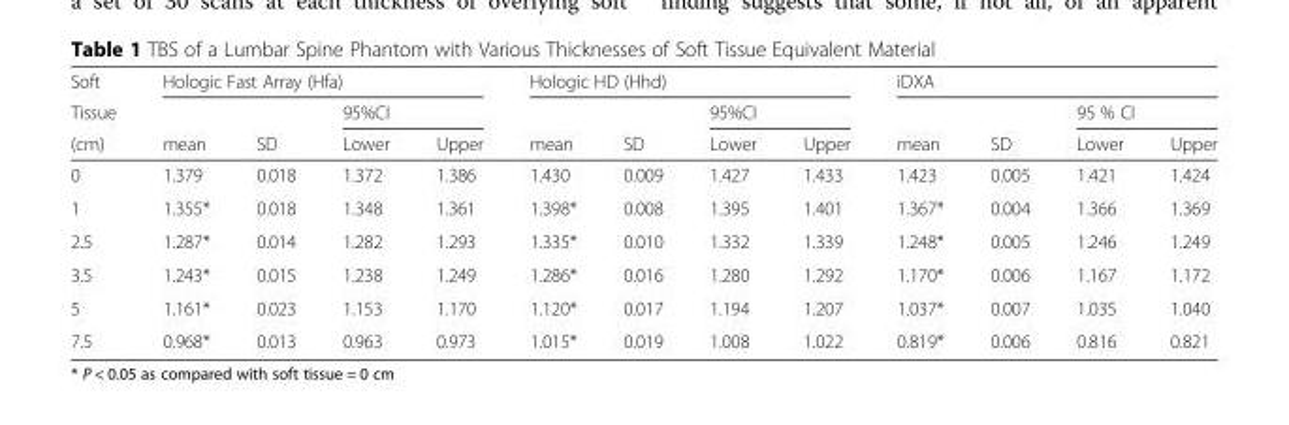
<table><thead><tr><td rowspan="3">Soft Tissue (cm)</td><td colspan="4">Hologic Fast Array (Hfa)</td><td colspan="4">Hologic HD (Hhd)</td><td colspan="4">iDXA</td></tr><tr><td rowspan="2">mean</td><td rowspan="2">SD</td><td colspan="2">95%CI</td><td rowspan="2">mean</td><td rowspan="2">SD</td><td colspan="2">95%CI</td><td rowspan="2">mean</td><td rowspan="2">SD</td><td colspan="2">95 % CI</td></tr><tr><td>Lower</td><td>Upper</td><td>Lower</td><td>Upper</td><td>Lower</td><td>Upper</td></tr></thead><tbody><tr><td>0</td><td>1.379</td><td>0.018</td><td>1.372</td><td>1.386</td><td>1.430</td><td>0.009</td><td>1.427</td><td>1.433</td><td>1.423</td><td>0.005</td><td>1.421</td><td>1.424</td></tr><tr><td>1</td><td>1.355*</td><td>0.018</td><td>1.348</td><td>1.361</td><td>1.398*</td><td>0.008</td><td>1.395</td><td>1.401</td><td>1.367*</td><td>0.004</td><td>1.366</td><td>1.369</td></tr><tr><td>2.5</td><td>1.287*</td><td>0.014</td><td>1.282</td><td>1.293</td><td>1.335*</td><td>0.010</td><td>1.332</td><td>1.339</td><td>1.248*</td><td>0.005</td><td>1.246</td><td>1.249</td></tr><tr><td>3.5</td><td>1.243*</td><td>0.015</td><td>1.238</td><td>1.249</td><td>1.286*</td><td>0.016</td><td>1.280</td><td>1.292</td><td>1.170*</td><td>0.006</td><td>1.167</td><td>1.172</td></tr><tr><td>5</td><td>1.161*</td><td>0.023</td><td>1.153</td><td>1.170</td><td>1.120*</td><td>0.017</td><td>1.194</td><td>1.207</td><td>1.037*</td><td>0.007</td><td>1.035</td><td>1.040</td></tr><tr><td>7.5</td><td>0.968*</td><td>0.013</td><td>0.963</td><td>0.973</td><td>1.015*</td><td>0.019</td><td>1.008</td><td>1.022</td><td>0.819*</td><td>0.006</td><td>0.816</td><td>0.821</td></tr></tbody></table>